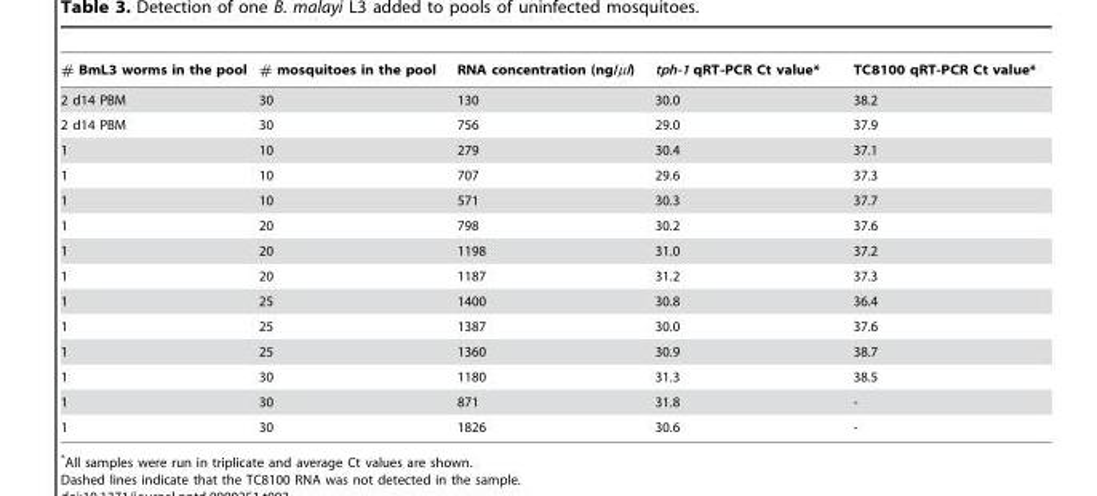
<table><thead><tr><td># BmL3 worms in the pool</td><td># mosquitoes in the pool</td><td>RNA concentration (ng/µl)</td><td>tph-1 qRT-PCR Ct value*</td><td>TC8100 qRT-PCR Ct value*</td></tr></thead><tbody><tr><td>2 d14 PBM</td><td>30</td><td>130</td><td>30.0</td><td>38.2</td></tr><tr><td>2 d14 PBM</td><td>30</td><td>756</td><td>29.0</td><td>37.9</td></tr><tr><td>1</td><td>10</td><td>279</td><td>30.4</td><td>37.1</td></tr><tr><td>1</td><td>10</td><td>707</td><td>29.6</td><td>37.3</td></tr><tr><td>1</td><td>10</td><td>571</td><td>30.3</td><td>37.7</td></tr><tr><td>1</td><td>20</td><td>798</td><td>30.2</td><td>37.6</td></tr><tr><td>1</td><td>20</td><td>1198</td><td>31.0</td><td>37.2</td></tr><tr><td>1</td><td>20</td><td>1187</td><td>31.2</td><td>37.3</td></tr><tr><td>1</td><td>25</td><td>1400</td><td>30.8</td><td>36.4</td></tr><tr><td>1</td><td>25</td><td>1387</td><td>30.0</td><td>37.6</td></tr><tr><td>1</td><td>25</td><td>1360</td><td>30.9</td><td>38.7</td></tr><tr><td>1</td><td>30</td><td>1180</td><td>31.3</td><td>38.5</td></tr><tr><td>1</td><td>30</td><td>871</td><td>31.8</td><td>-</td></tr><tr><td>1</td><td>30</td><td>1826</td><td>30.6</td><td>-</td></tr></tbody></table>